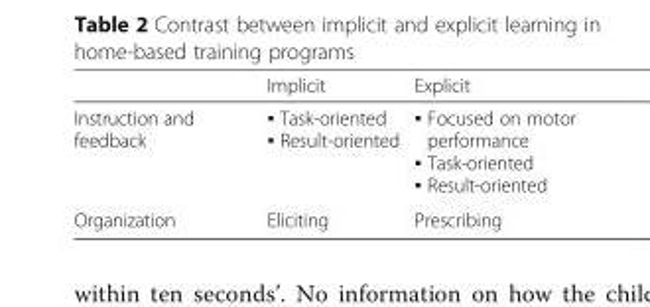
<table><thead><tr><td></td><td>Implicit</td><td>Explicit</td></tr></thead><tbody><tr><td>Instruction and feedback</td><td>▪ Task-oriented ▪ Result-oriented</td><td>▪ Focused on motor performance ▪ Task-oriented ▪ Result-oriented</td></tr><tr><td>Organization</td><td>Eliciting</td><td>Prescribing</td></tr></tbody></table>